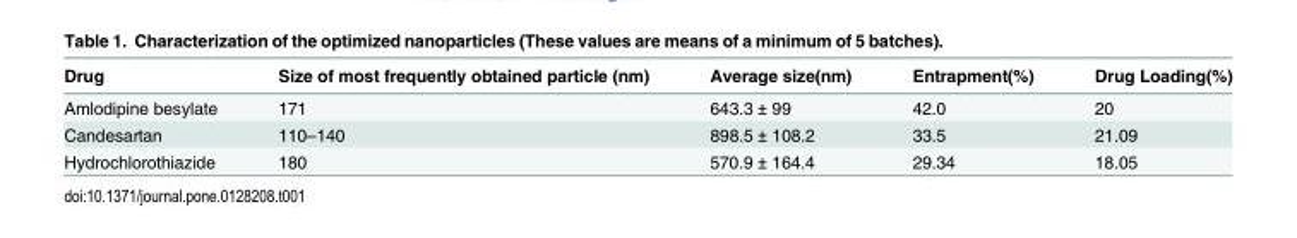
<table><thead><tr><td>Drug</td><td>Size of most frequently obtained particle (nm)</td><td>Average size(nm)</td><td>Entrapment(%)</td><td>Drug Loading(%)</td></tr></thead><tbody><tr><td>Amlodipine besylate</td><td>171</td><td>643.3 ± 99</td><td>42.0</td><td>20</td></tr><tr><td>Candesartan</td><td>110–140</td><td>898.5 ± 108.2</td><td>33.5</td><td>21.09</td></tr><tr><td>Hydrochlorothiazide</td><td>180</td><td>570.9 ± 164.4</td><td>29.34</td><td>18.05</td></tr></tbody></table>